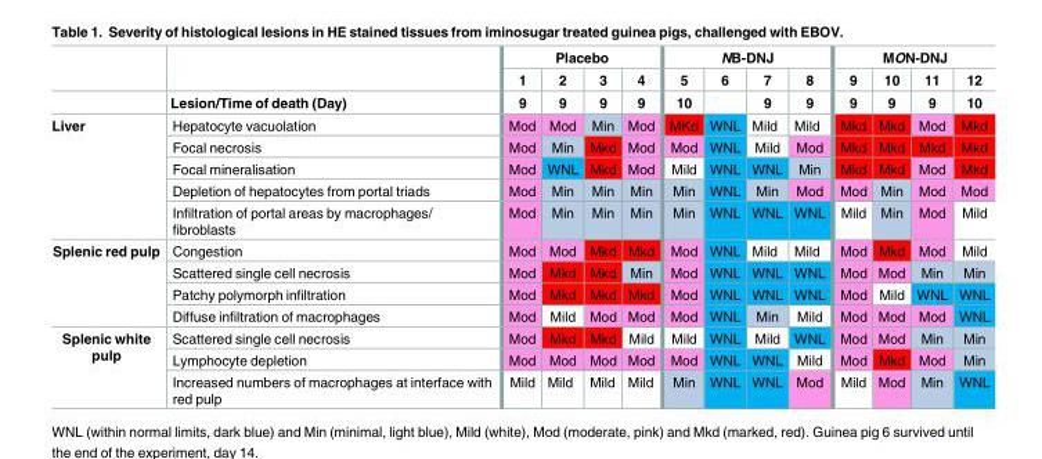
<table><thead><tr><td rowspan="3"></td><td rowspan="3">Lesion/Time of death (Day)</td><td colspan="4">Placebo</td><td colspan="4">NB-DNJ</td><td colspan="4">MON-DNJ</td></tr><tr><td rowspan="2">1 9</td><td rowspan="2">2 9</td><td rowspan="2">3 9</td><td rowspan="2">4 9</td><td rowspan="2">5 10</td><td rowspan="2">6</td><td rowspan="2">7 9</td><td rowspan="2">8 9</td><td rowspan="2">9 9</td><td rowspan="2">10 9</td><td rowspan="2">11 9</td><td rowspan="2">12 10</td></tr><tr></tr></thead><tbody><tr><td rowspan="5">Liver</td><td>Hepatocyte vacuolation</td><td>Mod</td><td>Mod</td><td>Min</td><td>Mod</td><td>MKd</td><td>WNL</td><td>Mild</td><td>Mild</td><td>Mkd</td><td>Mkd</td><td>Mod</td><td>Mkd</td></tr><tr><td>Focal necrosis</td><td>Mod</td><td>Min</td><td>Mkd</td><td>Mod</td><td>Mod</td><td>WNL</td><td>Mild</td><td>Mod</td><td>Mkd</td><td>Mkd</td><td>Mkd</td><td>Mkd</td></tr><tr><td>Focal mineralisation</td><td>Mod</td><td>WNL</td><td>Mkd</td><td>Mod</td><td>Mild</td><td>WNL</td><td>WNL</td><td>Min</td><td>Mkd</td><td>Mkd</td><td>Mod</td><td>Mkd</td></tr><tr><td>Depletion of hepatocytes from portal triads</td><td>Mod</td><td>Min</td><td>Min</td><td>Min</td><td>Min</td><td>WNL</td><td>Min</td><td>Mod</td><td>Mod</td><td>Min</td><td>Mod</td><td>Mod</td></tr><tr><td>Infiltration of portal areas by macrophages/ fibroblasts</td><td>Mod</td><td>Min</td><td>Min</td><td>Min</td><td>Min</td><td>WNL</td><td>WNL</td><td>WNL</td><td>Mild</td><td>Min</td><td>Mod</td><td>Mild</td></tr><tr><td rowspan="4">Splenic red pulp</td><td>Congestion</td><td>Mod</td><td>Mod</td><td>Mkd</td><td>Mkd</td><td>Mod</td><td>WNL</td><td>Mild</td><td>Mild</td><td>Mod</td><td>Mkd</td><td>Mod</td><td>Mild</td></tr><tr><td>Scattered single cell necrosis</td><td>Mod</td><td>Mkd</td><td>Mkd</td><td>Min</td><td>Mod</td><td>WNL</td><td>WNL</td><td>WNL</td><td>Mod</td><td>Mod</td><td>Min</td><td>Min</td></tr><tr><td>Patchy polymorph infiltration</td><td>Mod</td><td>Mkd</td><td>Mkd</td><td>Mkd</td><td>Mod</td><td>WNL</td><td>WNL</td><td>WNL</td><td>Mod</td><td>Mild</td><td>WNL</td><td>WNL</td></tr><tr><td>Diffuse infiltration of macrophages</td><td>Mod</td><td>Mild</td><td>Mod</td><td>Mod</td><td>Mod</td><td>WNL</td><td>Min</td><td>Mild</td><td>Mod</td><td>Mod</td><td>Mod</td><td>WNL</td></tr><tr><td rowspan="3">Splenic white pulp</td><td>Scattered single cell necrosis</td><td>Mod</td><td>Mkd</td><td>Mkd</td><td>Mild</td><td>Mild</td><td>WNL</td><td>Mild</td><td>WNL</td><td>Mod</td><td>Mod</td><td>Min</td><td>Min</td></tr><tr><td>Lymphocyte depletion</td><td>Mod</td><td>Mod</td><td>Mod</td><td>Mod</td><td>Mod</td><td>WNL</td><td>WNL</td><td>Mild</td><td>Mod</td><td>Mkd</td><td>Mod</td><td>Min</td></tr><tr><td>Increased numbers of macrophages at interface with red pulp</td><td>Mild</td><td>Mild</td><td>Mild</td><td>Mild</td><td>Min</td><td>WNL</td><td>WNL</td><td>Mod</td><td>Mild</td><td>Mod</td><td>Min</td><td>WNL</td></tr></tbody></table>